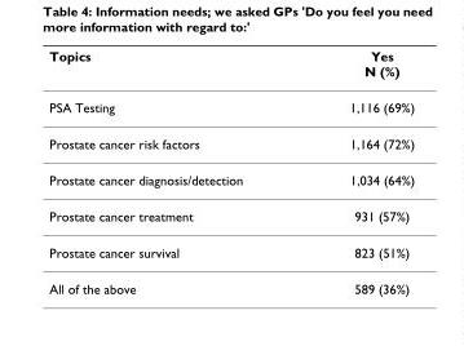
<table><thead><tr><td>Topics</td><td>Yes N (%)</td></tr></thead><tbody><tr><td>PSA Testing</td><td>1,116 (69%)</td></tr><tr><td>Prostate cancer risk factors</td><td>1,164 (72%)</td></tr><tr><td>Prostate cancer diagnosis/detection</td><td>1,034 (64%)</td></tr><tr><td>Prostate cancer treatment</td><td>931 (57%)</td></tr><tr><td>Prostate cancer survival</td><td>823 (51%)</td></tr><tr><td>All of the above</td><td>589 (36%)</td></tr></tbody></table>